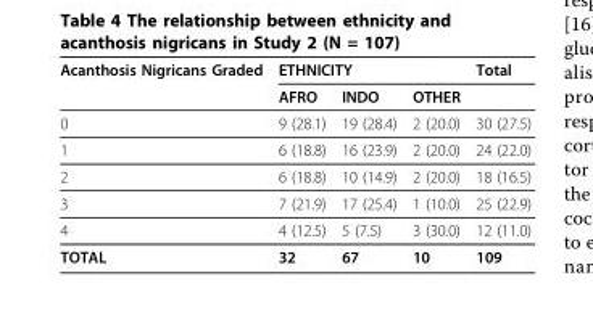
<table><thead><tr><td rowspan="2">Acanthosis Nigricans Graded</td><td colspan="3">ETHNICITY</td><td rowspan="2">Total</td></tr><tr><td>AFRO</td><td>INDO</td><td>OTHER</td></tr></thead><tbody><tr><td>0</td><td>9 (28.1)</td><td>19 (28.4)</td><td>2 (20.0)</td><td>30 (27.5)</td></tr><tr><td>1</td><td>6 (18.8)</td><td>16 (23.9)</td><td>2 (20.0)</td><td>24 (22.0)</td></tr><tr><td>2</td><td>6 (18.8)</td><td>10 (14.9)</td><td>2 (20.0)</td><td>18 (16.5)</td></tr><tr><td>3</td><td>7 (21.9)</td><td>17 (25.4)</td><td>1 (10.0)</td><td>25 (22.9)</td></tr><tr><td>4</td><td>4 (12.5)</td><td>5 (7.5)</td><td>3 (30.0)</td><td>12 (11.0)</td></tr><tr><td>TOTAL</td><td>32</td><td>67</td><td>10</td><td>109</td></tr></tbody></table>